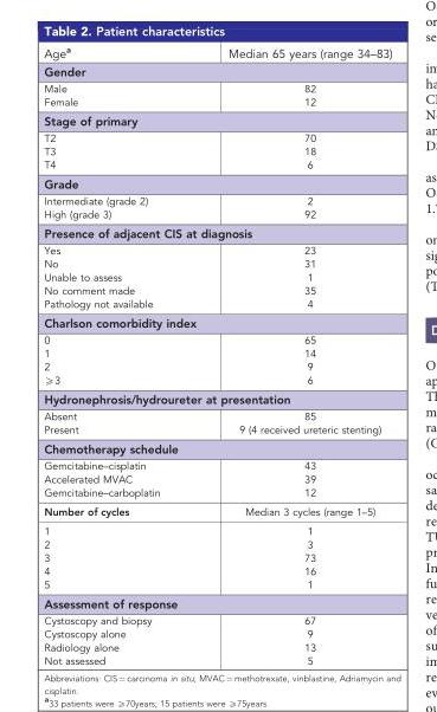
<table><thead><tr><td>Age<sup>a</sup></td><td>Median 65 years (range 34–83)</td></tr></thead><tbody><tr><td colspan="2">Gender</td></tr><tr><td>Male</td><td>82</td></tr><tr><td>Female</td><td>12</td></tr><tr><td colspan="2">Stage of primary</td></tr><tr><td>T2</td><td>70</td></tr><tr><td>T3</td><td>18</td></tr><tr><td>T4</td><td>6</td></tr><tr><td colspan="2">Grade</td></tr><tr><td>Intermediate (grade 2)</td><td>2</td></tr><tr><td>High (grade 3)</td><td>92</td></tr><tr><td colspan="2">Presence of adjacent CIS at diagnosis</td></tr><tr><td>Yes</td><td>23</td></tr><tr><td>No</td><td>31</td></tr><tr><td>Unable to assess</td><td>1</td></tr><tr><td>No comment made</td><td>35</td></tr><tr><td>Pathology not available</td><td>4</td></tr><tr><td colspan="2">Charlson comorbidity index</td></tr><tr><td>0</td><td>65</td></tr><tr><td>1</td><td>14</td></tr><tr><td>2</td><td>9</td></tr><tr><td>⩾3</td><td>6</td></tr><tr><td colspan="2">Hydronephrosis/hydroureter at presentation</td></tr><tr><td>Absent</td><td>85</td></tr><tr><td>Present</td><td>9 (4 received ureteric stenting)</td></tr><tr><td colspan="2">Chemotherapy schedule</td></tr><tr><td>Gemcitabine–cisplatin</td><td>43</td></tr><tr><td>Accelerated MVAC</td><td>39</td></tr><tr><td>Gemcitabine–carboplatin</td><td>12</td></tr><tr><td>Number of cycles</td><td>Median 3 cycles (range 1–5)</td></tr><tr><td>1</td><td>1</td></tr><tr><td>2</td><td>3</td></tr><tr><td>3</td><td>73</td></tr><tr><td>4</td><td>16</td></tr><tr><td>5</td><td>1</td></tr><tr><td colspan="2">Assessment of response</td></tr><tr><td>Cystoscopy and biopsy</td><td>67</td></tr><tr><td>Cystoscopy alone</td><td>9</td></tr><tr><td>Radiology alone</td><td>13</td></tr><tr><td>Not assessed</td><td>5</td></tr></tbody></table>